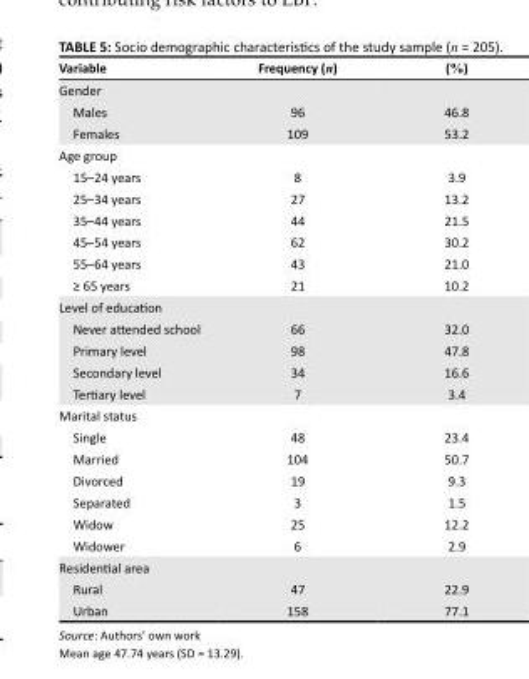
<table><thead><tr><td>Variable</td><td>Frequency (n)</td><td>(%)</td></tr></thead><tbody><tr><td colspan="3">Gender</td></tr><tr><td>Males</td><td>96</td><td>46.8</td></tr><tr><td>Females</td><td>109</td><td>53.2</td></tr><tr><td colspan="3">Age group</td></tr><tr><td>15–24 years</td><td>8</td><td>3.9</td></tr><tr><td>25–34 years</td><td>27</td><td>13.2</td></tr><tr><td>35–44 years</td><td>44</td><td>21.5</td></tr><tr><td>45–54 years</td><td>62</td><td>30.2</td></tr><tr><td>55–64 years</td><td>43</td><td>21.0</td></tr><tr><td>≥ 65 years</td><td>21</td><td>10.2</td></tr><tr><td colspan="3">Level of education</td></tr><tr><td>Never attended school</td><td>66</td><td>32.0</td></tr><tr><td>Primary level</td><td>98</td><td>47.8</td></tr><tr><td>Secondary level</td><td>34</td><td>16.6</td></tr><tr><td>Tertiary level</td><td>7</td><td>3.4</td></tr><tr><td colspan="3">Marital status</td></tr><tr><td>Single</td><td>48</td><td>23.4</td></tr><tr><td>Married</td><td>104</td><td>50.7</td></tr><tr><td>Divorced</td><td>19</td><td>9.3</td></tr><tr><td>Separated</td><td>3</td><td>1.5</td></tr><tr><td>Widow</td><td>25</td><td>12.2</td></tr><tr><td>Widower</td><td>6</td><td>2.9</td></tr><tr><td colspan="3">Residential area</td></tr><tr><td>Rural</td><td>47</td><td>22.9</td></tr><tr><td>Urban</td><td>158</td><td>77.1</td></tr></tbody></table>